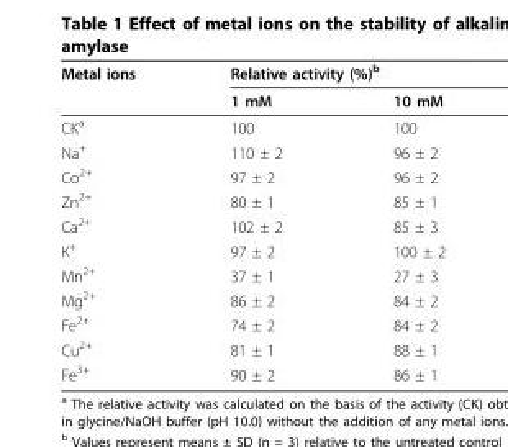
<table><thead><tr><td rowspan="2">Metal ions</td><td colspan="2">Relative activity (%)<sup>b</sup></td></tr><tr><td>1 mM</td><td>10 mM</td></tr></thead><tbody><tr><td>CK<sup>a</sup></td><td>100</td><td>100</td></tr><tr><td>Na<sup>+</sup></td><td>110 ± 2</td><td>96 ± 2</td></tr><tr><td>Co<sup>2+</sup></td><td>97 ± 2</td><td>96 ± 2</td></tr><tr><td>Zn<sup>2+</sup></td><td>80 ± 1</td><td>85 ± 1</td></tr><tr><td>Ca<sup>2+</sup></td><td>102 ± 2</td><td>85 ± 3</td></tr><tr><td>K<sup>+</sup></td><td>97 ± 2</td><td>100 ± 2</td></tr><tr><td>Mn<sup>2+</sup></td><td>37 ± 1</td><td>27 ± 3</td></tr><tr><td>Mg<sup>2+</sup></td><td>86 ± 2</td><td>84 ± 2</td></tr><tr><td>Fe<sup>2+</sup></td><td>74 ± 2</td><td>84 ± 2</td></tr><tr><td>Cu<sup>2+</sup></td><td>81 ± 1</td><td>88 ± 1</td></tr><tr><td>Fe<sup>3+</sup></td><td>90 ± 2</td><td>86 ± 1</td></tr></tbody></table>